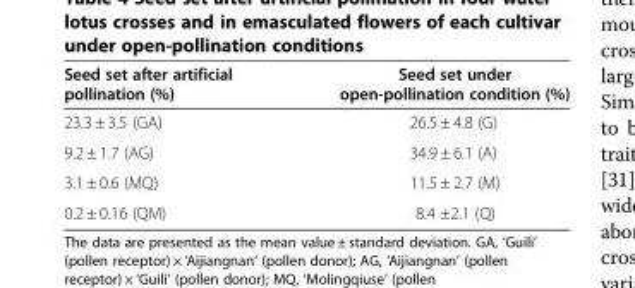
<table><thead><tr><td>Seed set after artificial pollination (%)</td><td>Seed set under open-pollination condition (%)</td></tr></thead><tbody><tr><td>23.3 ± 3.5 (GA)</td><td>26.5 ± 4.8 (G)</td></tr><tr><td>9.2 ± 1.7 (AG)</td><td>34.9 ± 6.1 (A)</td></tr><tr><td>3.1 ± 0.6 (MQ)</td><td>11.5 ± 2.7 (M)</td></tr><tr><td>0.2 ± 0.16 (QM)</td><td>8.4 ±2.1 (Q)</td></tr></tbody></table>